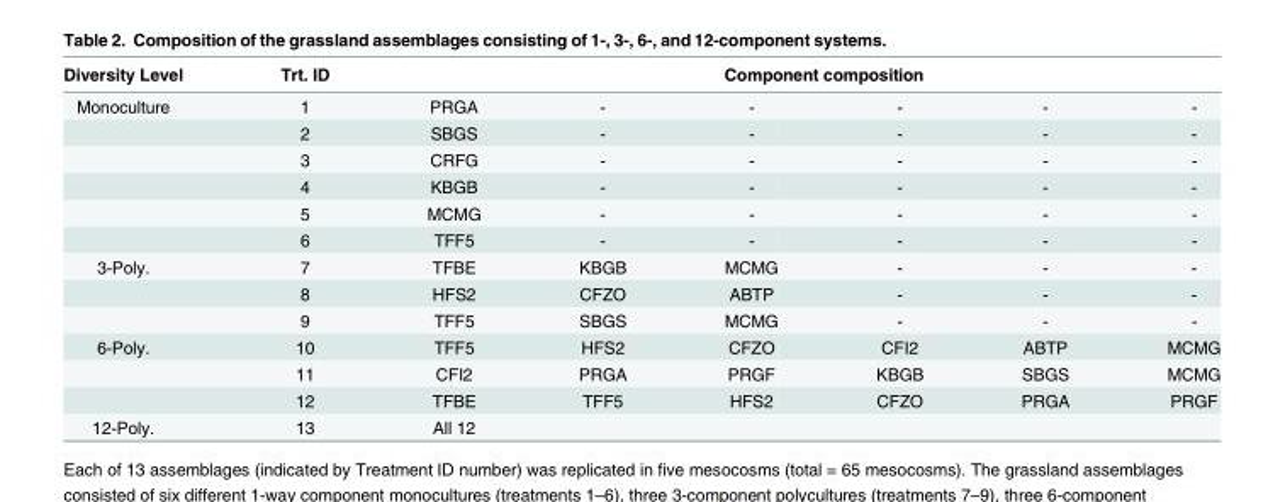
<table><thead><tr><td rowspan="2">Diversity Level Monoculture</td><td rowspan="2">Trt. ID 1</td><td colspan="6">Component composition</td></tr><tr><td>PRGA</td><td>-</td><td>-</td><td>-</td><td>-</td><td>-</td></tr></thead><tbody><tr><td></td><td>2</td><td>SBGS</td><td>-</td><td>-</td><td>-</td><td>-</td><td>-</td></tr><tr><td></td><td>3</td><td>CRFG</td><td>-</td><td>-</td><td>-</td><td>-</td><td>-</td></tr><tr><td></td><td>4</td><td>KBGB</td><td>-</td><td>-</td><td>-</td><td>-</td><td>-</td></tr><tr><td></td><td>5</td><td>MCMG</td><td>-</td><td>-</td><td>-</td><td>-</td><td>-</td></tr><tr><td></td><td>6</td><td>TFF5</td><td>-</td><td>-</td><td>-</td><td>-</td><td>-</td></tr><tr><td rowspan="3">3-Poly.</td><td>7</td><td>TFBE</td><td>KBGB</td><td>MCMG</td><td>-</td><td>-</td><td>-</td></tr><tr><td>8</td><td>HFS2</td><td>CFZO</td><td>ABTP</td><td>-</td><td>-</td><td>-</td></tr><tr><td>9</td><td>TFF5</td><td>SBGS</td><td>MCMG</td><td>-</td><td>-</td><td>-</td></tr><tr><td rowspan="3">6-Poly.</td><td>10</td><td>TFF5</td><td>HFS2</td><td>CFZO</td><td>CFI2</td><td>ABTP</td><td>MCMG</td></tr><tr><td>11</td><td>CFI2</td><td>PRGA</td><td>PRGF</td><td>KBGB</td><td>SBGS</td><td>MCMG</td></tr><tr><td>12</td><td>TFBE</td><td>TFF5</td><td>HFS2</td><td>CFZO</td><td>PRGA</td><td>PRGF</td></tr><tr><td>12-Poly.</td><td>13</td><td>All 12</td><td></td><td></td><td></td><td></td><td></td></tr></tbody></table>